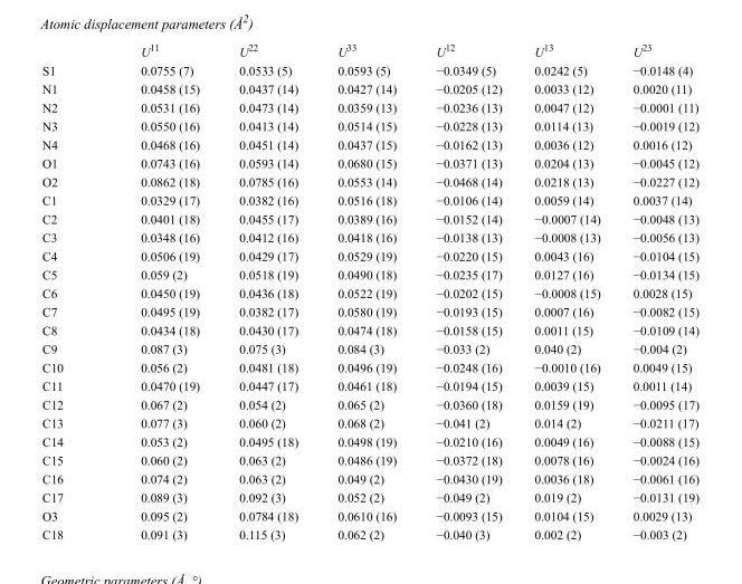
<table><thead><tr><td></td><td>U<sup>11</sup></td><td>U<sup>22</sup></td><td>U<sup>33</sup></td><td>U<sup>12</sup></td><td>U<sup>13</sup></td><td>U<sup>23</sup></td></tr></thead><tbody><tr><td>S1</td><td>0.0755 (7)</td><td>0.0533 (5)</td><td>0.0593 (5)</td><td>−0.0349 (5)</td><td>0.0242 (5)</td><td>−0.0148 (4)</td></tr><tr><td>N1</td><td>0.0458 (15)</td><td>0.0437 (14)</td><td>0.0427 (14)</td><td>−0.0205 (12)</td><td>0.0033 (12)</td><td>0.0020 (11)</td></tr><tr><td>N2</td><td>0.0531 (16)</td><td>0.0473 (14)</td><td>0.0359 (13)</td><td>−0.0236 (13)</td><td>0.0047 (12)</td><td>−0.0001 (11)</td></tr><tr><td>N3</td><td>0.0550 (16)</td><td>0.0413 (14)</td><td>0.0514 (15)</td><td>−0.0228 (13)</td><td>0.0114 (13)</td><td>−0.0019 (12)</td></tr><tr><td>N4</td><td>0.0468 (16)</td><td>0.0451 (14)</td><td>0.0437 (15)</td><td>−0.0162 (13)</td><td>0.0036 (12)</td><td>0.0016 (12)</td></tr><tr><td>O1</td><td>0.0743 (16)</td><td>0.0593 (14)</td><td>0.0680 (15)</td><td>−0.0371 (13)</td><td>0.0204 (13)</td><td>−0.0045 (12)</td></tr><tr><td>O2</td><td>0.0862 (18)</td><td>0.0785 (16)</td><td>0.0553 (14)</td><td>−0.0468 (14)</td><td>0.0218 (13)</td><td>−0.0227 (12)</td></tr><tr><td>C1</td><td>0.0329 (17)</td><td>0.0382 (16)</td><td>0.0516 (18)</td><td>−0.0106 (14)</td><td>0.0059 (14)</td><td>0.0037 (14)</td></tr><tr><td>C2</td><td>0.0401 (18)</td><td>0.0455 (17)</td><td>0.0389 (16)</td><td>−0.0152 (14)</td><td>−0.0007 (14)</td><td>−0.0048 (13)</td></tr><tr><td>C3</td><td>0.0348 (16)</td><td>0.0412 (16)</td><td>0.0418 (16)</td><td>−0.0138 (13)</td><td>−0.0008 (13)</td><td>−0.0056 (13)</td></tr><tr><td>C4</td><td>0.0506 (19)</td><td>0.0429 (17)</td><td>0.0529 (19)</td><td>−0.0220 (15)</td><td>0.0043 (16)</td><td>−0.0104 (15)</td></tr><tr><td>C5</td><td>0.059 (2)</td><td>0.0518 (19)</td><td>0.0490 (18)</td><td>−0.0235 (17)</td><td>0.0127 (16)</td><td>−0.0134 (15)</td></tr><tr><td>C6</td><td>0.0450 (19)</td><td>0.0436 (18)</td><td>0.0522 (19)</td><td>−0.0202 (15)</td><td>−0.0008 (15)</td><td>0.0028 (15)</td></tr><tr><td>C7</td><td>0.0495 (19)</td><td>0.0382 (17)</td><td>0.0580 (19)</td><td>−0.0193 (15)</td><td>0.0007 (16)</td><td>−0.0082 (15)</td></tr><tr><td>C8</td><td>0.0434 (18)</td><td>0.0430 (17)</td><td>0.0474 (18)</td><td>−0.0158 (15)</td><td>0.0011 (15)</td><td>−0.0109 (14)</td></tr><tr><td>C9</td><td>0.087 (3)</td><td>0.075 (3)</td><td>0.084 (3)</td><td>−0.033 (2)</td><td>0.040 (2)</td><td>−0.004 (2)</td></tr><tr><td>C10</td><td>0.056 (2)</td><td>0.0481 (18)</td><td>0.0496 (19)</td><td>−0.0248 (16)</td><td>−0.0010 (16)</td><td>0.0049 (15)</td></tr><tr><td>C11</td><td>0.0470 (19)</td><td>0.0447 (17)</td><td>0.0461 (18)</td><td>−0.0194 (15)</td><td>0.0039 (15)</td><td>0.0011 (14)</td></tr><tr><td>C12</td><td>0.067 (2)</td><td>0.054 (2)</td><td>0.065 (2)</td><td>−0.0360 (18)</td><td>0.0159 (19)</td><td>−0.0095 (17)</td></tr><tr><td>C13</td><td>0.077 (3)</td><td>0.060 (2)</td><td>0.068 (2)</td><td>−0.041 (2)</td><td>0.014 (2)</td><td>−0.0211 (17)</td></tr><tr><td>C14</td><td>0.053 (2)</td><td>0.0495 (18)</td><td>0.0498 (19)</td><td>−0.0210 (16)</td><td>0.0049 (16)</td><td>−0.0088 (15)</td></tr><tr><td>C15</td><td>0.060 (2)</td><td>0.063 (2)</td><td>0.0486 (19)</td><td>−0.0372 (18)</td><td>0.0078 (16)</td><td>−0.0024 (16)</td></tr><tr><td>C16</td><td>0.074 (2)</td><td>0.063 (2)</td><td>0.049 (2)</td><td>−0.0430 (19)</td><td>0.0036 (18)</td><td>−0.0061 (16)</td></tr><tr><td>C17</td><td>0.089 (3)</td><td>0.092 (3)</td><td>0.052 (2)</td><td>−0.049 (2)</td><td>0.019 (2)</td><td>−0.0131 (19)</td></tr><tr><td>O3</td><td>0.095 (2)</td><td>0.0784 (18)</td><td>0.0610 (16)</td><td>−0.0093 (15)</td><td>0.0104 (15)</td><td>0.0029 (13)</td></tr><tr><td>C18</td><td>0.091 (3)</td><td>0.115 (3)</td><td>0.062 (2)</td><td>−0.040 (3)</td><td>0.002 (2)</td><td>−0.003 (2)</td></tr></tbody></table>